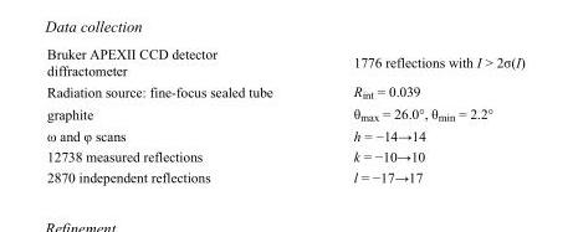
<table><tbody><tr><td>Bruker APEXII CCD detector diffractometer</td><td>1776 reflections with I &gt; 2σ(I)</td></tr><tr><td>Radiation source: fine-focus sealed tube</td><td>R<sub>int</sub> = 0.039</td></tr><tr><td>graphite</td><td>θ<sub>max</sub> = 26.0°, θ<sub>min</sub> = 2.2°</td></tr><tr><td>ω and φ scans</td><td>h = −14→14</td></tr><tr><td>12738 measured reflections</td><td>k = −10→10</td></tr><tr><td>2870 independent reflections</td><td>l = −17→17</td></tr></tbody></table>